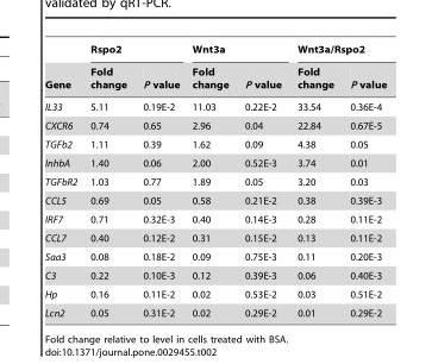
<table><thead><tr><td rowspan="2">Gene</td><td colspan="2">Rspo2</td><td colspan="2">Wnt3a</td><td colspan="2">Wnt3a/Rspo2</td></tr><tr><td>Fold change</td><td>P value</td><td>Fold change</td><td>P value</td><td>Fold change</td><td>P value</td></tr></thead><tbody><tr><td>IL33</td><td>5.11</td><td>0.19E-2</td><td>11.03</td><td>0.22E-2</td><td>33.54</td><td>0.36E-4</td></tr><tr><td>CXCR6</td><td>0.74</td><td>0.65</td><td>2.96</td><td>0.04</td><td>22.84</td><td>0.67E-5</td></tr><tr><td>TGFb2</td><td>1.11</td><td>0.39</td><td>1.62</td><td>0.09</td><td>4.38</td><td>0.05</td></tr><tr><td>InhbA</td><td>1.40</td><td>0.06</td><td>2.00</td><td>0.52E-3</td><td>3.74</td><td>0.01</td></tr><tr><td>TGFbR2</td><td>1.03</td><td>0.77</td><td>1.89</td><td>0.05</td><td>3.20</td><td>0.03</td></tr><tr><td>CCL5</td><td>0.69</td><td>0.05</td><td>0.58</td><td>0.21E-2</td><td>0.38</td><td>0.39E-3</td></tr><tr><td>IRF7</td><td>0.71</td><td>0.32E-3</td><td>0.40</td><td>0.14E-3</td><td>0.28</td><td>0.11E-2</td></tr><tr><td>CCL7</td><td>0.40</td><td>0.12E-2</td><td>0.31</td><td>0.15E-2</td><td>0.13</td><td>0.11E-2</td></tr><tr><td>Saa3</td><td>0.08</td><td>0.18E-2</td><td>0.09</td><td>0.75E-3</td><td>0.11</td><td>0.20E-3</td></tr><tr><td>C3</td><td>0.22</td><td>0.10E-3</td><td>0.12</td><td>0.39E-3</td><td>0.06</td><td>0.40E-3</td></tr><tr><td>Hp</td><td>0.16</td><td>0.11E-2</td><td>0.02</td><td>0.53E-2</td><td>0.03</td><td>0.51E-2</td></tr><tr><td>Lcn2</td><td>0.05</td><td>0.31E-2</td><td>0.02</td><td>0.29E-2</td><td>0.01</td><td>0.29E-2</td></tr></tbody></table>